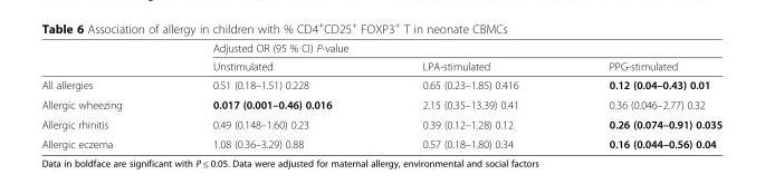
<table><thead><tr><td rowspan="2"></td><td colspan="3">Adjusted OR (95 % CI) P-value</td></tr><tr><td>Unstimulated</td><td>LPA-stimulated</td><td>PPG-stimulated</td></tr></thead><tbody><tr><td>All allergies</td><td>0.51 (0.18–1.51) 0.228</td><td>0.65 (0.23–1.85) 0.416</td><td>0.12 (0.04–0.43) 0.01</td></tr><tr><td>Allergic wheezing</td><td>0.017 (0.001–0.46) 0.016</td><td>2.15 (0.35–13.39) 0.41</td><td>0.36 (0.046–2.77) 0.32</td></tr><tr><td>Allergic rhinitis</td><td>0.49 (0.148–1.60) 0.23</td><td>0.39 (0.12–1.28) 0.12</td><td>0.26 (0.074–0.91) 0.035</td></tr><tr><td>Allergic eczema</td><td>1.08 (0.36–3.29) 0.88</td><td>0.57 (0.18–1.80) 0.34</td><td>0.16 (0.044–0.56) 0.04</td></tr></tbody></table>